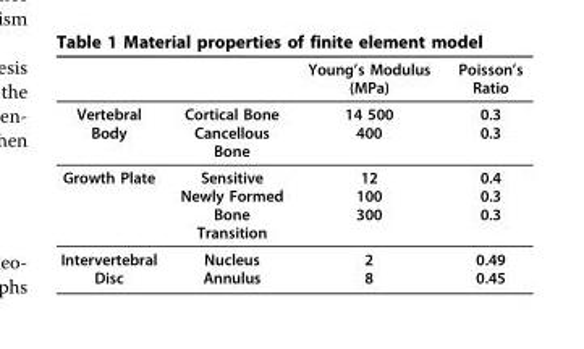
<table><thead><tr><td></td><td></td><td>Young’s Modulus (MPa)</td><td>Poisson’s Ratio</td></tr></thead><tbody><tr><td>Vertebral Body</td><td>Cortical Bone Cancellous Bone</td><td>14 500 400</td><td>0.3 0.3</td></tr><tr><td>Growth Plate</td><td>Sensitive Newly Formed Bone Transition</td><td>12 100 300</td><td>0.4 0.3 0.3</td></tr><tr><td>Intervertebral Disc</td><td>Nucleus Annulus</td><td>2 8</td><td>0.49 0.45</td></tr></tbody></table>